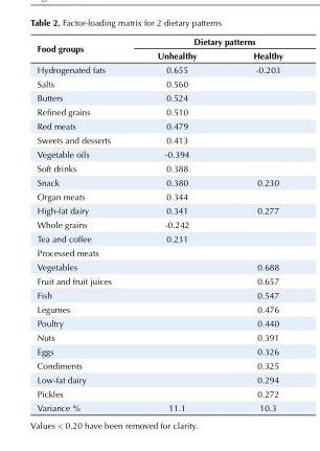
<table><tbody><tr><td rowspan="2">Food groups</td><td colspan="2">Dietary patterns</td></tr><tr><td>Unhealthy</td><td>Healthy</td></tr><tr><td>Hydrogenated fats</td><td>0.655</td><td>-0.203</td></tr><tr><td>Salts</td><td>0.560</td><td></td></tr><tr><td>Butters</td><td>0.524</td><td></td></tr><tr><td>Refined grains</td><td>0.510</td><td></td></tr><tr><td>Red meats</td><td>0.479</td><td></td></tr><tr><td>Sweets and desserts</td><td>0.413</td><td></td></tr><tr><td>Vegetable oils</td><td>-0.394</td><td></td></tr><tr><td>Soft drinks</td><td>0.388</td><td></td></tr><tr><td>Snack</td><td>0.380</td><td>0.230</td></tr><tr><td>Organ meats</td><td>0.344</td><td></td></tr><tr><td>High-fat dairy</td><td>0.341</td><td>0.277</td></tr><tr><td>Whole grains</td><td>-0.242</td><td></td></tr><tr><td>Tea and coffee</td><td>0.231</td><td></td></tr><tr><td colspan="3">Processed meats</td></tr><tr><td>Vegetables</td><td></td><td>0.688</td></tr><tr><td>Fruit and fruit juices</td><td></td><td>0.657</td></tr><tr><td>Fish</td><td></td><td>0.547</td></tr><tr><td>Legumes</td><td></td><td>0.476</td></tr><tr><td>Poultry</td><td></td><td>0.440</td></tr><tr><td>Nuts</td><td></td><td>0.391</td></tr><tr><td>Eggs</td><td></td><td>0.326</td></tr><tr><td>Condiments</td><td></td><td>0.325</td></tr><tr><td>Low-fat dairy</td><td></td><td>0.294</td></tr><tr><td>Pickles</td><td></td><td>0.272</td></tr><tr><td>Variance %</td><td>11.1</td><td>10.3</td></tr></tbody></table>